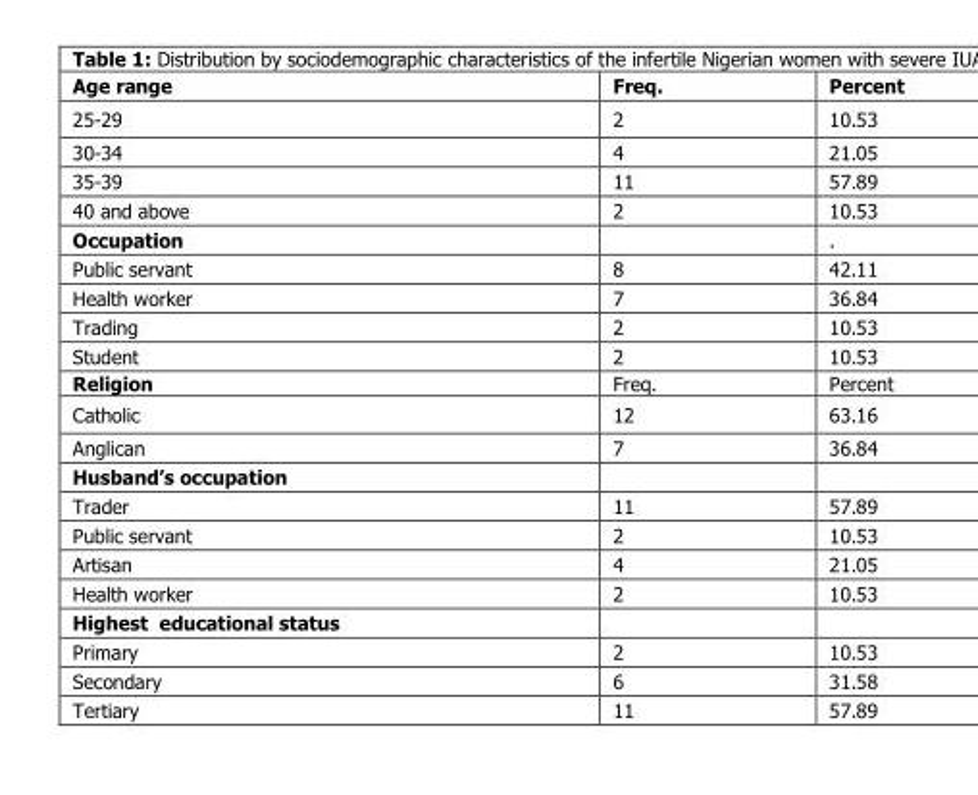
<table><thead><tr><td>Age range</td><td>Freq.</td><td>Percent</td></tr></thead><tbody><tr><td>25-29</td><td>2</td><td>10.53</td></tr><tr><td>30-34</td><td>4</td><td>21.05</td></tr><tr><td>35-39</td><td>11</td><td>57.89</td></tr><tr><td>40 and above</td><td>2</td><td>10.53</td></tr><tr><td>Occupation</td><td></td><td>.</td></tr><tr><td>Public servant</td><td>8</td><td>42.11</td></tr><tr><td>Health worker</td><td>7</td><td>36.84</td></tr><tr><td>Trading</td><td>2</td><td>10.53</td></tr><tr><td>Student</td><td>2</td><td>10.53</td></tr><tr><td>Religion</td><td>Freq.</td><td>Percent</td></tr><tr><td>Catholic</td><td>12</td><td>63.16</td></tr><tr><td>Anglican</td><td>7</td><td>36.84</td></tr><tr><td colspan="3">Husband’s occupation</td></tr><tr><td>Trader</td><td>11</td><td>57.89</td></tr><tr><td>Public servant</td><td>2</td><td>10.53</td></tr><tr><td>Artisan</td><td>4</td><td>21.05</td></tr><tr><td>Health worker</td><td>2</td><td>10.53</td></tr><tr><td colspan="3">Highest educational status</td></tr><tr><td>Primary</td><td>2</td><td>10.53</td></tr><tr><td>Secondary</td><td>6</td><td>31.58</td></tr><tr><td>Tertiary</td><td>11</td><td>57.89</td></tr></tbody></table>